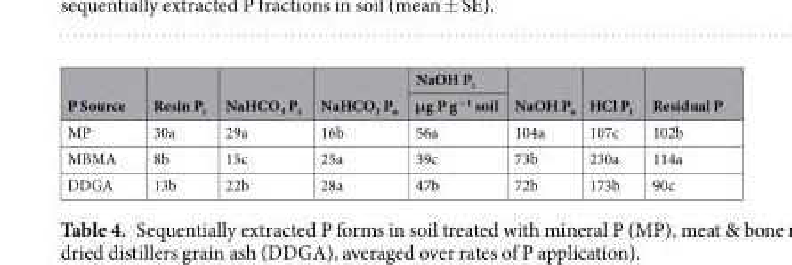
<table><thead><tr><td rowspan="2">P Source</td><td rowspan="2">Resin P<sub>i</sub></td><td rowspan="2">NaHCO<sub>3</sub> P<sub>i</sub></td><td rowspan="2">NaHCO<sub>3</sub> P<sub>o</sub></td><td rowspan="2">NaOH P<sub>i</sub> μg P g<sup>−1</sup> soil</td><td rowspan="2">NaOH P<sub>o</sub></td><td rowspan="2">HCl P<sub>i</sub></td><td rowspan="2">Residual P</td></tr><tr></tr></thead><tbody><tr><td>MP</td><td>30a</td><td>29a</td><td>16b</td><td>56a</td><td>104a</td><td>107c</td><td>102b</td></tr><tr><td>MBMA</td><td>8b</td><td>15c</td><td>25a</td><td>39c</td><td>73b</td><td>230a</td><td>114a</td></tr><tr><td>DDGA</td><td>13b</td><td>22b</td><td>28a</td><td>47b</td><td>72b</td><td>173b</td><td>90c</td></tr></tbody></table>